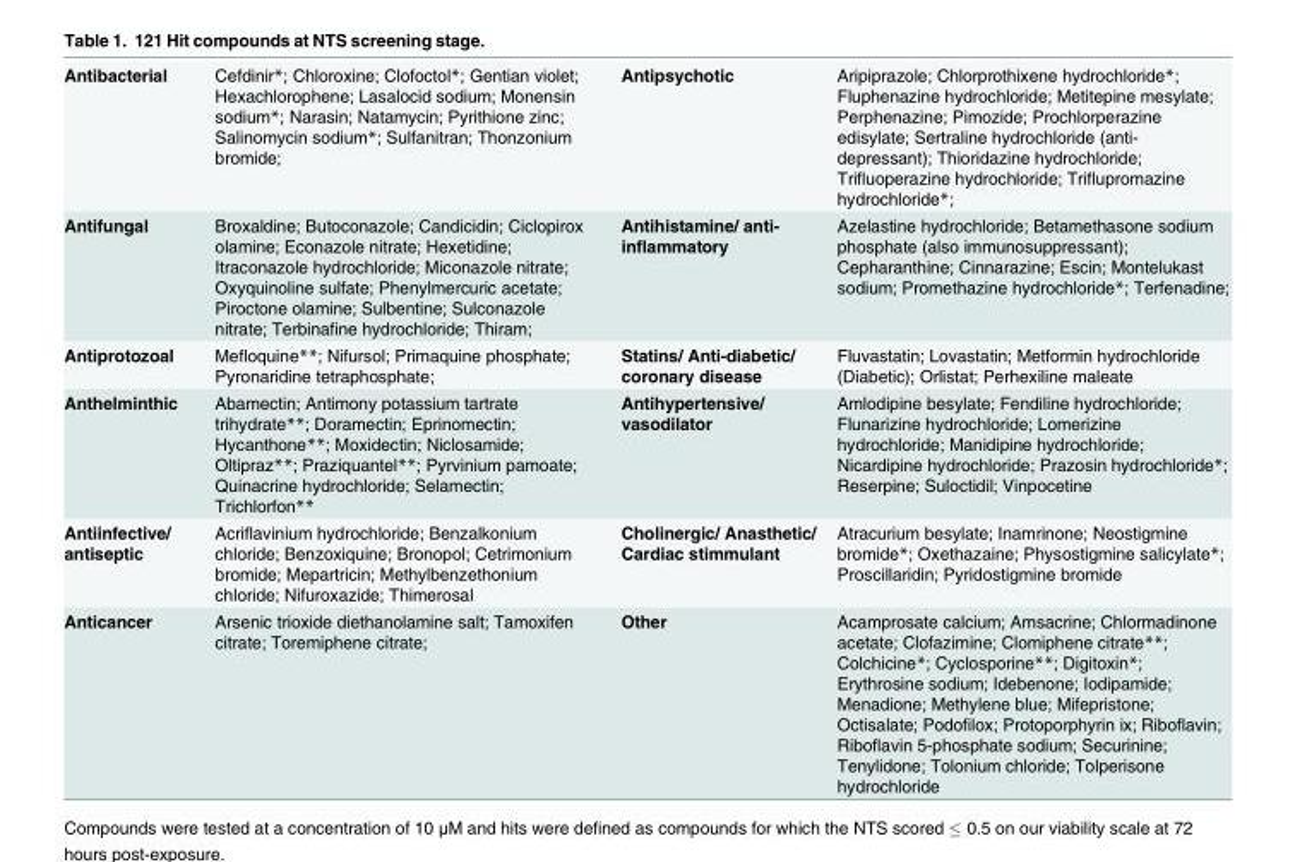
<table><tbody><tr><td>Antibacterial</td><td>Cefdinir*; Chloroxine; Clofoctol*; Gentian violet; Hexachlorophene; Lasalocid sodium; Monensin sodium*; Narasin; Natamycin; Pyrithione zinc; Salinomycin sodium*; Sulfanitran; Thonzonium bromide;</td><td>Antipsychotic</td><td>Aripiprazole; Chlorprothixene hydrochloride*; Fluphenazine hydrochloride; Metitepine mesylate; Perphenazine; Pimozide; Prochlorperazine edisylate; Sertraline hydrochloride (anti- depressant); Thioridazine hydrochloride; Trifluoperazine hydrochloride; Triflupromazine hydrochloride*;</td></tr><tr><td>Antifungal</td><td>Broxaldine; Butoconazole; Candicidin; Ciclopirox olamine; Econazole nitrate; Hexetidine; Itraconazole hydrochloride; Miconazole nitrate; Oxyquinoline sulfate; Phenylmercuric acetate; Piroctone olamine; Sulbentine; Sulconazole nitrate; Terbinafine hydrochloride; Thiram;</td><td>Antihistamine/ anti- inflammatory</td><td>Azelastine hydrochloride; Betamethasone sodium phosphate (also immunosuppressant); Cepharanthine; Cinnarazine; Escin; Montelukast sodium; Promethazine hydrochloride*; Terfenadine;</td></tr><tr><td>Antiprotozoal</td><td>Mefloquine**; Nifursol; Primaquine phosphate; Pyronaridine tetraphosphate;</td><td>Statins/ Anti-diabetic/ coronary disease</td><td>Fluvastatin; Lovastatin; Metformin hydrochloride (Diabetic); Orlistat; Perhexiline maleate</td></tr><tr><td>Anthelminthic</td><td>Abamectin; Antimony potassium tartrate trihydrate**; Doramectin; Eprinomectin; Hycanthone**; Moxidectin; Niclosamide; Oltipraz**; Praziquantel**; Pyrvinium pamoate; Quinacrine hydrochloride; Selamectin; Trichlorfon**</td><td>Antihypertensive/ vasodilator</td><td>Amlodipine besylate; Fendiline hydrochloride; Flunarizine hydrochloride; Lomerizine hydrochloride; Manidipine hydrochloride; Nicardipine hydrochloride; Prazosin hydrochloride*; Reserpine; Suloctidil; Vinpocetine</td></tr><tr><td>Antiinfective/ antiseptic</td><td>Acriflavinium hydrochloride; Benzalkonium chloride; Benzoxiquine; Bronopol; Cetrimonium bromide; Mepartricin; Methylbenzethonium chloride; Nifuroxazide; Thimerosal</td><td>Cholinergic/ Anasthetic/ Cardiac stimmulant</td><td>Atracurium besylate; Inamrinone; Neostigmine bromide*; Oxethazaine; Physostigmine salicylate*; Proscillaridin; Pyridostigmine bromide</td></tr><tr><td>Anticancer</td><td>Arsenic trioxide diethanolamine salt; Tamoxifen citrate; Toremiphene citrate;</td><td>Other</td><td>Acamprosate calcium; Amsacrine; Chlormadinone acetate; Clofazimine; Clomiphene citrate**; Colchicine*; Cyclosporine**; Digitoxin*; Erythrosine sodium; Idebenone; Iodipamide; Menadione; Methylene blue; Mifepristone; Octisalate; Podofilox; Protoporphyrin ix; Riboflavin; Riboflavin 5-phosphate sodium; Securinine; Tenylidone; Tolonium chloride; Tolperisone hydrochloride</td></tr></tbody></table>